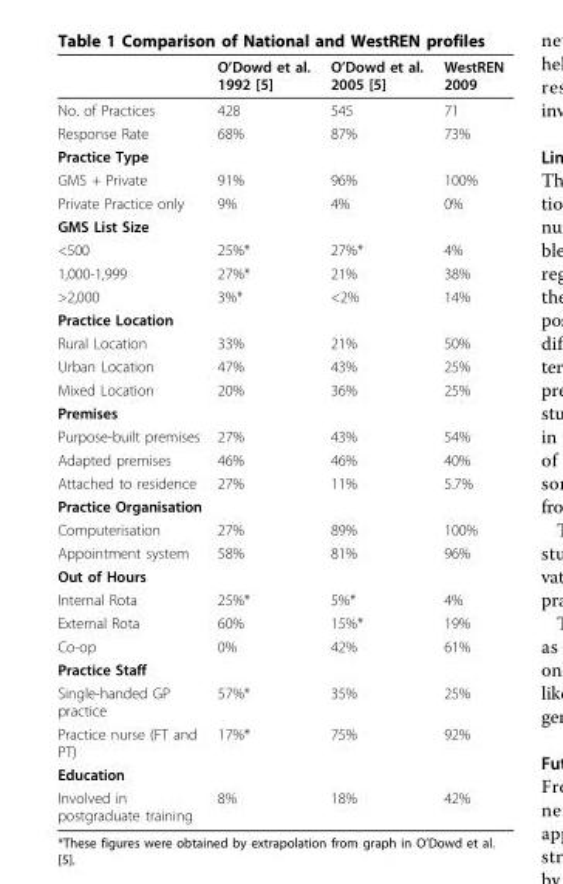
<table><thead><tr><td></td><td>O’Dowd et al. 1992 [5]</td><td>O’Dowd et al. 2005 [5]</td><td>WestREN 2009</td></tr></thead><tbody><tr><td>No. of Practices</td><td>428</td><td>545</td><td>71</td></tr><tr><td>Response Rate</td><td>68%</td><td>87%</td><td>73%</td></tr><tr><td colspan="4">Practice Type</td></tr><tr><td>GMS + Private</td><td>91%</td><td>96%</td><td>100%</td></tr><tr><td>Private Practice only</td><td>9%</td><td>4%</td><td>0%</td></tr><tr><td colspan="4">GMS List Size</td></tr><tr><td>&lt;500</td><td>25%*</td><td>27%*</td><td>4%</td></tr><tr><td>1,000-1,999</td><td>27%*</td><td>21%</td><td>38%</td></tr><tr><td>&gt;2,000</td><td>3%*</td><td>&lt;2%</td><td>14%</td></tr><tr><td colspan="4">Practice Location</td></tr><tr><td>Rural Location</td><td>33%</td><td>21%</td><td>50%</td></tr><tr><td>Urban Location</td><td>47%</td><td>43%</td><td>25%</td></tr><tr><td>Mixed Location</td><td>20%</td><td>36%</td><td>25%</td></tr><tr><td colspan="4">Premises</td></tr><tr><td>Purpose-built premises</td><td>27%</td><td>43%</td><td>54%</td></tr><tr><td>Adapted premises</td><td>46%</td><td>46%</td><td>40%</td></tr><tr><td>Attached to residence</td><td>27%</td><td>11%</td><td>5.7%</td></tr><tr><td colspan="4">Practice Organisation</td></tr><tr><td>Computerisation</td><td>27%</td><td>89%</td><td>100%</td></tr><tr><td>Appointment system</td><td>58%</td><td>81%</td><td>96%</td></tr><tr><td colspan="4">Out of Hours</td></tr><tr><td>Internal Rota</td><td>25%*</td><td>5%*</td><td>4%</td></tr><tr><td>External Rota</td><td>60%</td><td>15%*</td><td>19%</td></tr><tr><td>Co-op</td><td>0%</td><td>42%</td><td>61%</td></tr><tr><td colspan="4">Practice Staff</td></tr><tr><td>Single-handed GP practice</td><td>57%*</td><td>35%</td><td>25%</td></tr><tr><td>Practice nurse (FT and PT)</td><td>17%*</td><td>75%</td><td>92%</td></tr><tr><td colspan="4">Education</td></tr><tr><td>Involved in postgraduate training</td><td>8%</td><td>18%</td><td>42%</td></tr></tbody></table>